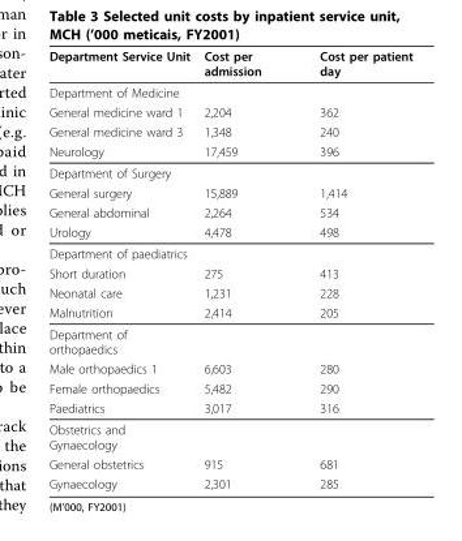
<table><thead><tr><td>Department Service Unit</td><td>Cost per admission</td><td>Cost per patient day</td></tr></thead><tbody><tr><td colspan="3">Department of Medicine</td></tr><tr><td>General medicine ward 1</td><td>2,204</td><td>362</td></tr><tr><td>General medicine ward 3</td><td>1,348</td><td>240</td></tr><tr><td>Neurology</td><td>17,459</td><td>396</td></tr><tr><td colspan="3">Department of Surgery</td></tr><tr><td>General surgery</td><td>15,889</td><td>1,414</td></tr><tr><td>General abdominal</td><td>2,264</td><td>534</td></tr><tr><td>Urology</td><td>4,478</td><td>498</td></tr><tr><td colspan="3">Department of paediatrics</td></tr><tr><td>Short duration</td><td>275</td><td>413</td></tr><tr><td>Neonatal care</td><td>1,231</td><td>228</td></tr><tr><td>Malnutrition</td><td>2,414</td><td>205</td></tr><tr><td colspan="3">Department of orthopaedics</td></tr><tr><td>Male orthopaedics 1</td><td>6,603</td><td>280</td></tr><tr><td>Female orthopaedics</td><td>5,482</td><td>290</td></tr><tr><td>Paediatrics</td><td>3,017</td><td>316</td></tr><tr><td colspan="3">Obstetrics and Gynaecology</td></tr><tr><td>General obstetrics</td><td>915</td><td>681</td></tr><tr><td>Gynaecology</td><td>2,301</td><td>285</td></tr></tbody></table>